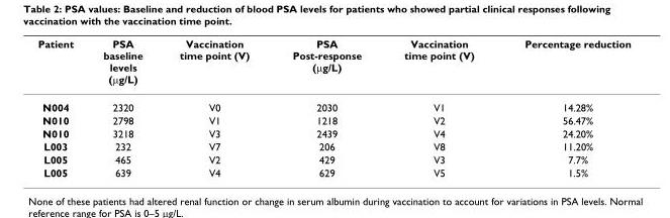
<table><thead><tr><td>Patient</td><td>PSA baseline levels (μg/L)</td><td>Vaccination time point (V)</td><td>PSA Post-response (μg/L)</td><td>Vaccination time point (V)</td><td>Percentage reduction</td></tr></thead><tbody><tr><td>N004</td><td>2320</td><td>V0</td><td>2030</td><td>V1</td><td>14.28%</td></tr><tr><td>N010</td><td>2798</td><td>V1</td><td>1218</td><td>V2</td><td>56.47%</td></tr><tr><td>N010</td><td>3218</td><td>V3</td><td>2439</td><td>V4</td><td>24.20%</td></tr><tr><td>L003</td><td>232</td><td>V7</td><td>206</td><td>V8</td><td>11.20%</td></tr><tr><td>L005</td><td>465</td><td>V2</td><td>429</td><td>V3</td><td>7.7%</td></tr><tr><td>L005</td><td>639</td><td>V4</td><td>629</td><td>V5</td><td>1.5%</td></tr></tbody></table>